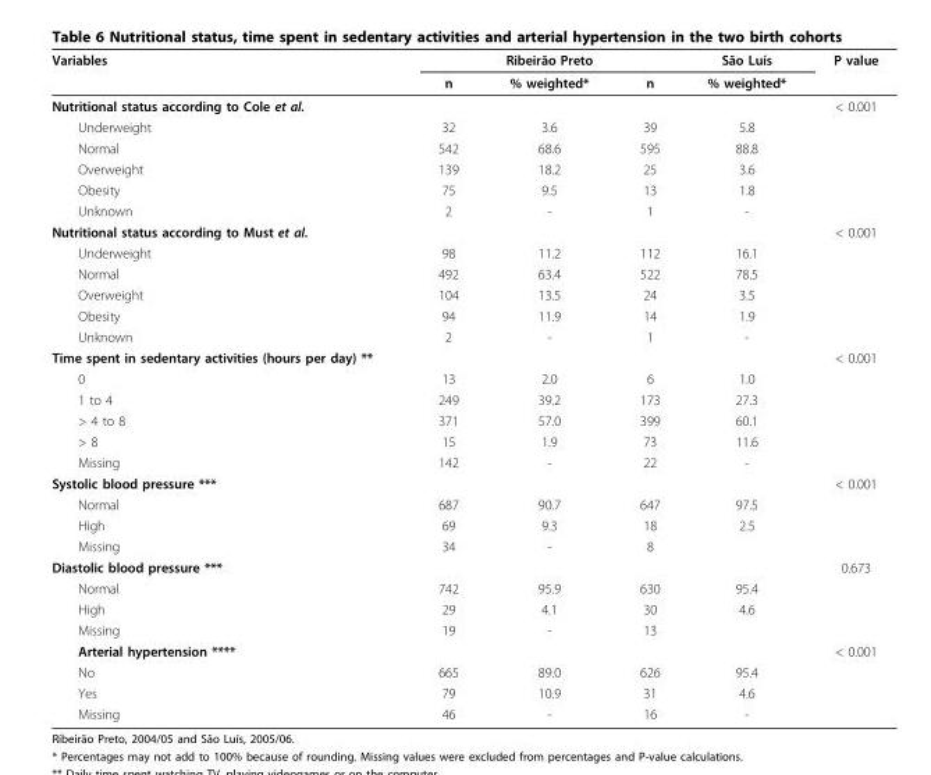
<table><thead><tr><td rowspan="2">Variables</td><td rowspan="2">n</td><td rowspan="2">Ribeirão Preto % weighted*</td><td rowspan="2">n</td><td rowspan="2">São Luís % weighted*</td><td rowspan="2">P value</td></tr><tr></tr></thead><tbody><tr><td>Nutritional status according to Cole et al.</td><td></td><td></td><td></td><td></td><td>&lt; 0.001</td></tr><tr><td>Underweight</td><td>32</td><td>3.6</td><td>39</td><td>5.8</td><td></td></tr><tr><td>Normal</td><td>542</td><td>68.6</td><td>595</td><td>88.8</td><td></td></tr><tr><td>Overweight</td><td>139</td><td>18.2</td><td>25</td><td>3.6</td><td></td></tr><tr><td>Obesity</td><td>75</td><td>9.5</td><td>13</td><td>1.8</td><td></td></tr><tr><td>Unknown</td><td>2</td><td>-</td><td>1</td><td>-</td><td></td></tr><tr><td>Nutritional status according to Must et al.</td><td></td><td></td><td></td><td></td><td>&lt; 0.001</td></tr><tr><td>Underweight</td><td>98</td><td>11.2</td><td>112</td><td>16.1</td><td></td></tr><tr><td>Normal</td><td>492</td><td>63.4</td><td>522</td><td>78.5</td><td></td></tr><tr><td>Overweight</td><td>104</td><td>13.5</td><td>24</td><td>3.5</td><td></td></tr><tr><td>Obesity</td><td>94</td><td>11.9</td><td>14</td><td>1.9</td><td></td></tr><tr><td>Unknown</td><td>2</td><td>-</td><td>1</td><td>-</td><td></td></tr><tr><td>Time spent in sedentary activities (hours per day) **</td><td></td><td></td><td></td><td></td><td>&lt; 0.001</td></tr><tr><td>0</td><td>13</td><td>2.0</td><td>6</td><td>1.0</td><td></td></tr><tr><td>1 to 4</td><td>249</td><td>39.2</td><td>173</td><td>27.3</td><td></td></tr><tr><td>&gt; 4 to 8</td><td>371</td><td>57.0</td><td>399</td><td>60.1</td><td></td></tr><tr><td>&gt; 8</td><td>15</td><td>1.9</td><td>73</td><td>11.6</td><td></td></tr><tr><td>Missing</td><td>142</td><td>-</td><td>22</td><td>-</td><td></td></tr><tr><td>Systolic blood pressure ***</td><td></td><td></td><td></td><td></td><td>&lt; 0.001</td></tr><tr><td>Normal</td><td>687</td><td>90.7</td><td>647</td><td>97.5</td><td></td></tr><tr><td>High</td><td>69</td><td>9.3</td><td>18</td><td>2.5</td><td></td></tr><tr><td>Missing</td><td>34</td><td>-</td><td>8</td><td></td><td></td></tr><tr><td>Diastolic blood pressure ***</td><td></td><td></td><td></td><td></td><td>0.673</td></tr><tr><td>Normal</td><td>742</td><td>95.9</td><td>630</td><td>95.4</td><td></td></tr><tr><td>High</td><td>29</td><td>4.1</td><td>30</td><td>4.6</td><td></td></tr><tr><td>Missing</td><td>19</td><td>-</td><td>13</td><td></td><td></td></tr><tr><td>Arterial hypertension ****</td><td></td><td></td><td></td><td></td><td>&lt; 0.001</td></tr><tr><td>No</td><td>665</td><td>89.0</td><td>626</td><td>95.4</td><td></td></tr><tr><td>Yes</td><td>79</td><td>10.9</td><td>31</td><td>4.6</td><td></td></tr><tr><td>Missing</td><td>46</td><td>-</td><td>16</td><td>-</td><td></td></tr></tbody></table>